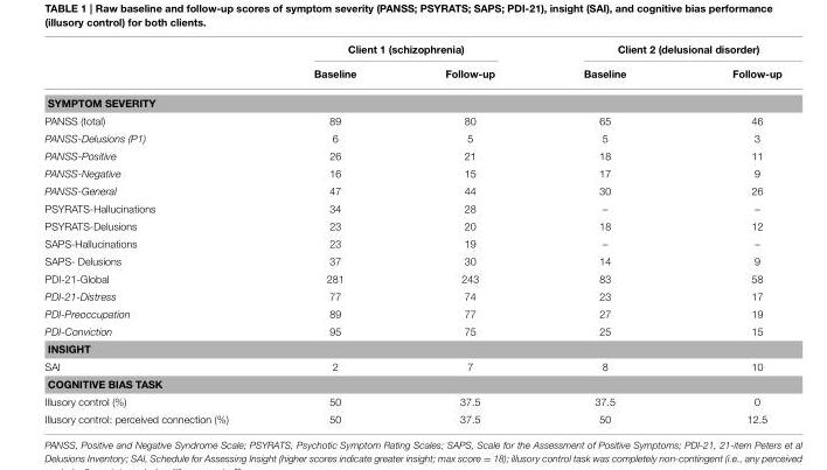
<table><thead><tr><td rowspan="2"></td><td colspan="2">Client 1 (schizophrenia)</td><td colspan="2">Client 2 (delusional disorder)</td></tr><tr><td>Baseline</td><td>Follow-up</td><td>Baseline</td><td>Follow-up</td></tr></thead><tbody><tr><td colspan="5">SYMPTOM SEVERITY</td></tr><tr><td>PANSS (total)</td><td>89</td><td>80</td><td>65</td><td>46</td></tr><tr><td>PANSS-Delusions (P1)</td><td>6</td><td>5</td><td>5</td><td>3</td></tr><tr><td>PANSS-Positive</td><td>26</td><td>21</td><td>18</td><td>11</td></tr><tr><td>PANSS-Negative</td><td>16</td><td>15</td><td>17</td><td>9</td></tr><tr><td>PANSS-General</td><td>47</td><td>44</td><td>30</td><td>26</td></tr><tr><td>PSYRATS-Hallucinations</td><td>34</td><td>28</td><td>–</td><td>–</td></tr><tr><td>PSYRATS-Delusions</td><td>23</td><td>20</td><td>18</td><td>12</td></tr><tr><td>SAPS-Hallucinations</td><td>23</td><td>19</td><td>–</td><td>–</td></tr><tr><td>SAPS- Delusions</td><td>37</td><td>30</td><td>14</td><td>9</td></tr><tr><td>PDI-21-Global</td><td>281</td><td>243</td><td>83</td><td>58</td></tr><tr><td>PDI-21-Distress</td><td>77</td><td>74</td><td>23</td><td>17</td></tr><tr><td>PDI-Preoccupation</td><td>89</td><td>77</td><td>27</td><td>19</td></tr><tr><td>PDI-Conviction</td><td>95</td><td>75</td><td>25</td><td>15</td></tr><tr><td colspan="5">INSIGHT</td></tr><tr><td>SAI</td><td>2</td><td>7</td><td>8</td><td>10</td></tr><tr><td colspan="5">COGNITIVE BIAS TASK</td></tr><tr><td>Illusory control (%)</td><td>50</td><td>37.5</td><td>37.5</td><td>0</td></tr><tr><td>Illusory control: perceived connection (%)</td><td>50</td><td>37.5</td><td>50</td><td>12.5</td></tr></tbody></table>